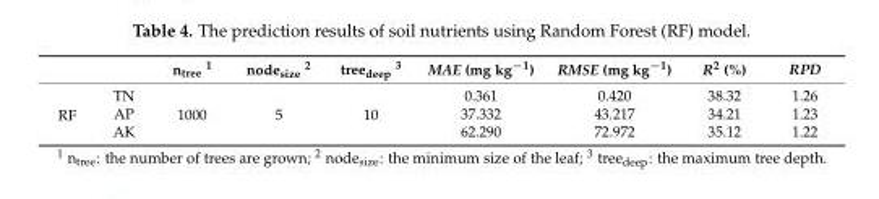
<table><thead><tr><td></td><td></td><td>n<sub>tree</sub> <sup>1</sup></td><td>node<sub>size</sub> <sup>2</sup></td><td>tree<sub>deep</sub> <sup>3</sup></td><td>MAE (mg kg<sup>−1</sup>)</td><td>RMSE (mg kg<sup>−1</sup>)</td><td>R<sup>2</sup> (%)</td><td>RPD</td></tr></thead><tbody><tr><td rowspan="3">RF</td><td>TN</td><td rowspan="3">1000</td><td rowspan="3">5</td><td rowspan="3">10</td><td>0.361</td><td>0.420</td><td>38.32</td><td>1.26</td></tr><tr><td>AP</td><td>37.332</td><td>43.217</td><td>34.21</td><td>1.23</td></tr><tr><td>AK</td><td>62.290</td><td>72.972</td><td>35.12</td><td>1.22</td></tr></tbody></table>